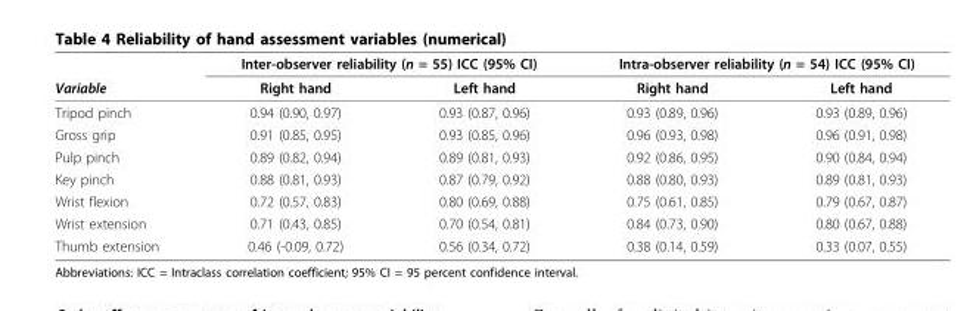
<table><thead><tr><td rowspan="2">Variable</td><td colspan="2">Inter-observer reliability (n = 55) ICC (95% CI)</td><td colspan="2">Intra-observer reliability (n = 54) ICC (95% CI)</td></tr><tr><td>Right hand</td><td>Left hand</td><td>Right hand</td><td>Left hand</td></tr></thead><tbody><tr><td>Tripod pinch</td><td>0.94 (0.90, 0.97)</td><td>0.93 (0.87, 0.96)</td><td>0.93 (0.89, 0.96)</td><td>0.93 (0.89, 0.96)</td></tr><tr><td>Gross grip</td><td>0.91 (0.85, 0.95)</td><td>0.93 (0.85, 0.96)</td><td>0.96 (0.93, 0.98)</td><td>0.96 (0.91, 0.98)</td></tr><tr><td>Pulp pinch</td><td>0.89 (0.82, 0.94)</td><td>0.89 (0.81, 0.93)</td><td>0.92 (0.86, 0.95)</td><td>0.90 (0.84, 0.94)</td></tr><tr><td>Key pinch</td><td>0.88 (0.81, 0.93)</td><td>0.87 (0.79, 0.92)</td><td>0.88 (0.80, 0.93)</td><td>0.89 (0.81, 0.93)</td></tr><tr><td>Wrist flexion</td><td>0.72 (0.57, 0.83)</td><td>0.80 (0.69, 0.88)</td><td>0.75 (0.61, 0.85)</td><td>0.79 (0.67, 0.87)</td></tr><tr><td>Wrist extension</td><td>0.71 (0.43, 0.85)</td><td>0.70 (0.54, 0.81)</td><td>0.84 (0.73, 0.90)</td><td>0.80 (0.67, 0.88)</td></tr><tr><td>Thumb extension</td><td>0.46 (-0.09, 0.72)</td><td>0.56 (0.34, 0.72)</td><td>0.38 (0.14, 0.59)</td><td>0.33 (0.07, 0.55)</td></tr></tbody></table>